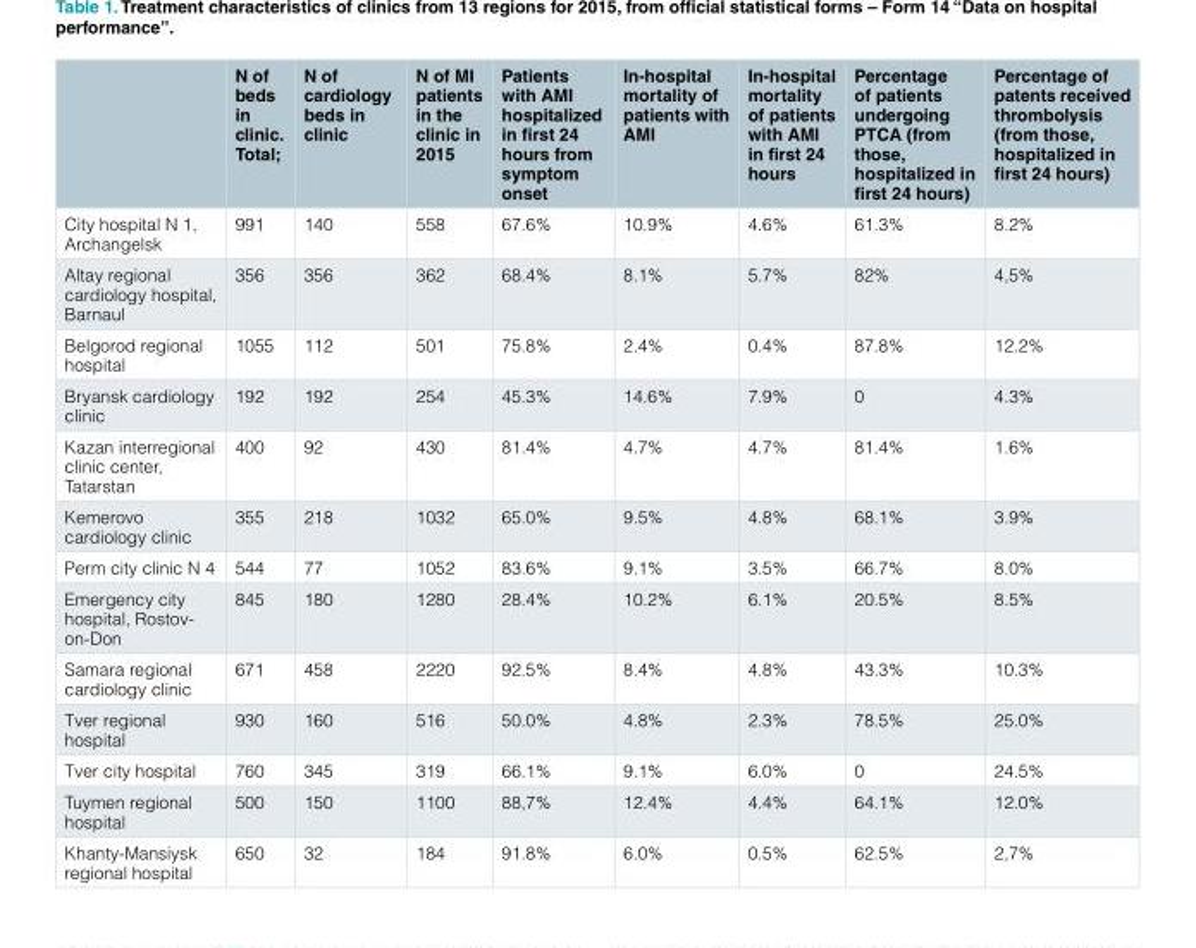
<table><thead><tr><td></td><td>N of beds in clinic. Total;</td><td>N of cardiology beds in clinic</td><td>N of MI patients in the clinic in 2015</td><td>Patients with AMI hospitalized in first 24 hours from symptom onset</td><td>In-hospital mortality of patients with AMI</td><td>In-hospital mortality of patients with AMI in first 24 hours</td><td>Percentage of patients undergoing PTCA (from those, hospitalized in first 24 hours)</td><td>Percentage of patents received thrombolysis (from those, hospitalized in first 24 hours)</td></tr></thead><tbody><tr><td>City hospital N 1, Archangelsk</td><td>991</td><td>140</td><td>558</td><td>67.6%</td><td>10.9%</td><td>4.6%</td><td>61.3%</td><td>8.2%</td></tr><tr><td>Altay regional cardiology hospital, Barnaul</td><td>356</td><td>356</td><td>362</td><td>68.4%</td><td>8.1%</td><td>5.7%</td><td>82%</td><td>4,5%</td></tr><tr><td>Belgorod regional hospital</td><td>1055</td><td>112</td><td>501</td><td>75.8%</td><td>2.4%</td><td>0.4%</td><td>87.8%</td><td>12.2%</td></tr><tr><td>Bryansk cardiology clinic</td><td>192</td><td>192</td><td>254</td><td>45.3%</td><td>14.6%</td><td>7.9%</td><td>0</td><td>4.3%</td></tr><tr><td>Kazan interregional clinic center, Tatarstan</td><td>400</td><td>92</td><td>430</td><td>81.4%</td><td>4.7%</td><td>4.7%</td><td>81.4%</td><td>1.6%</td></tr><tr><td>Kemerovo cardiology clinic</td><td>355</td><td>218</td><td>1032</td><td>65.0%</td><td>9.5%</td><td>4.8%</td><td>68.1%</td><td>3.9%</td></tr><tr><td>Perm city clinic N 4</td><td>544</td><td>77</td><td>1052</td><td>83.6%</td><td>9.1%</td><td>3.5%</td><td>66.7%</td><td>8.0%</td></tr><tr><td>Emergency city hospital, Rostov- on-Don</td><td>845</td><td>180</td><td>1280</td><td>28.4%</td><td>10.2%</td><td>6.1%</td><td>20.5%</td><td>8.5%</td></tr><tr><td>Samara regional cardiology clinic</td><td>671</td><td>458</td><td>2220</td><td>92.5%</td><td>8.4%</td><td>4.8%</td><td>43.3%</td><td>10.3%</td></tr><tr><td>Tver regional hospital</td><td>930</td><td>160</td><td>516</td><td>50.0%</td><td>4.8%</td><td>2.3%</td><td>78.5%</td><td>25.0%</td></tr><tr><td>Tver city hospital</td><td>760</td><td>345</td><td>319</td><td>66.1%</td><td>9.1%</td><td>6.0%</td><td>0</td><td>24.5%</td></tr><tr><td>Tuymen regional hospital</td><td>500</td><td>150</td><td>1100</td><td>88,7%</td><td>12.4%</td><td>4.4%</td><td>64.1%</td><td>12.0%</td></tr><tr><td>Khanty-Mansiysk regional hospital</td><td>650</td><td>32</td><td>184</td><td>91.8%</td><td>6.0%</td><td>0.5%</td><td>62.5%</td><td>2,7%</td></tr></tbody></table>